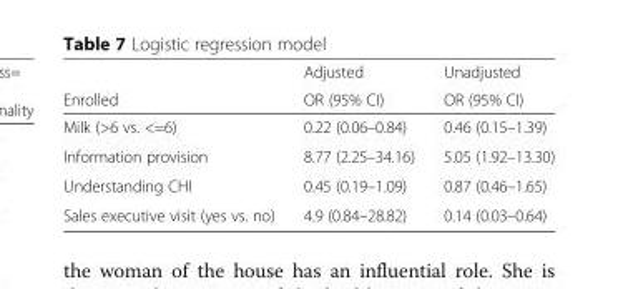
<table><thead><tr><td rowspan="2">Enrolled</td><td rowspan="2">Adjusted OR (95% CI)</td><td rowspan="2">Unadjusted OR (95% CI)</td></tr><tr></tr></thead><tbody><tr><td>Milk (&gt;6 vs. &lt;=6)</td><td>0.22 (0.06–0.84)</td><td>0.46 (0.15–1.39)</td></tr><tr><td>Information provision</td><td>8.77 (2.25–34.16)</td><td>5.05 (1.92–13.30)</td></tr><tr><td>Understanding CHI</td><td>0.45 (0.19–1.09)</td><td>0.87 (0.46–1.65)</td></tr><tr><td>Sales executive visit (yes vs. no)</td><td>4.9 (0.84–28.82)</td><td>0.14 (0.03–0.64)</td></tr></tbody></table>